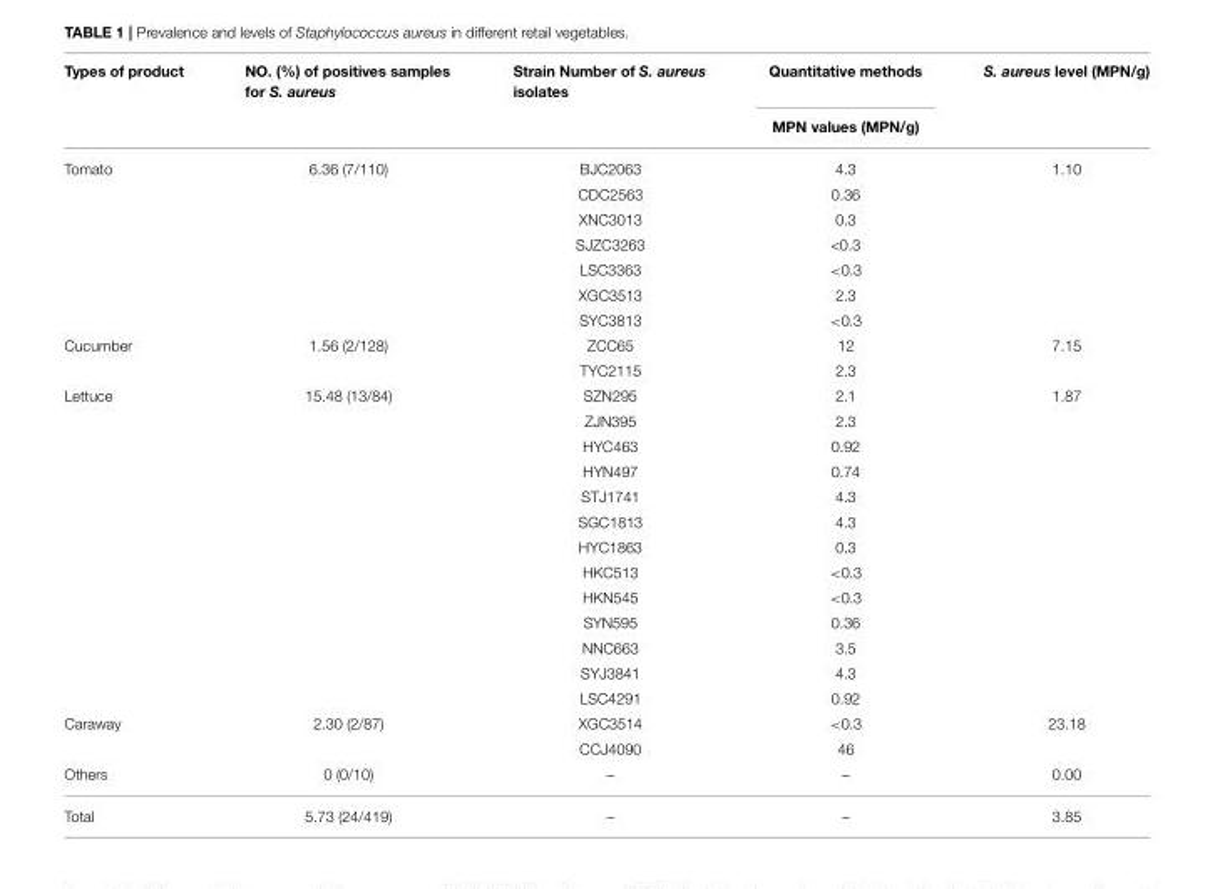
<table><thead><tr><td rowspan="2">Types of product</td><td rowspan="2">NO. (%) of positives samples for S. aureus</td><td rowspan="2">Strain Number of S. aureus isolates</td><td rowspan="2">Quantitative methods MPN values (MPN/g)</td><td rowspan="2">S. aureus level (MPN/g)</td></tr><tr></tr></thead><tbody><tr><td rowspan="7">Tomato</td><td>6.36 (7/110)</td><td>BJC2063</td><td>4.3</td><td>1.10</td></tr><tr><td></td><td>CDC2563</td><td>0.36</td><td></td></tr><tr><td></td><td>XNC3013</td><td>0.3</td><td></td></tr><tr><td></td><td>SJZC3263</td><td>&lt;0.3</td><td></td></tr><tr><td></td><td>LSC3363</td><td>&lt;0.3</td><td></td></tr><tr><td></td><td>XGC3513</td><td>2.3</td><td></td></tr><tr><td></td><td>SYC3813</td><td>&lt;0.3</td><td></td></tr><tr><td rowspan="2">Cucumber</td><td>1.56 (2/128)</td><td>ZCC65</td><td>12</td><td>7.15</td></tr><tr><td></td><td>TYC2115</td><td>2.3</td><td></td></tr><tr><td rowspan="13">Lettuce</td><td>15.48 (13/84)</td><td>SZN295</td><td>2.1</td><td>1.87</td></tr><tr><td></td><td>ZJN395</td><td>2.3</td><td></td></tr><tr><td></td><td>HYC463</td><td>0.92</td><td></td></tr><tr><td></td><td>HYN497</td><td>0.74</td><td></td></tr><tr><td></td><td>STJ1741</td><td>4.3</td><td></td></tr><tr><td></td><td>SGC1813</td><td>4.3</td><td></td></tr><tr><td></td><td>HYC1863</td><td>0.3</td><td></td></tr><tr><td></td><td>HKC513</td><td>&lt;0.3</td><td></td></tr><tr><td></td><td>HKN545</td><td>&lt;0.3</td><td></td></tr><tr><td></td><td>SYN595</td><td>0.36</td><td></td></tr><tr><td></td><td>NNC663</td><td>3.5</td><td></td></tr><tr><td></td><td>SYJ3841</td><td>4.3</td><td></td></tr><tr><td></td><td>LSC4291</td><td>0.92</td><td></td></tr><tr><td rowspan="2">Caraway</td><td>2.30 (2/87)</td><td>XGC3514</td><td>&lt;0.3</td><td>23.18</td></tr><tr><td></td><td>CCJ4090</td><td>46</td><td></td></tr><tr><td>Others</td><td>0 (0/10)</td><td>–</td><td>–</td><td>0.00</td></tr><tr><td>Total</td><td>5.73 (24/419)</td><td>–</td><td>–</td><td>3.85</td></tr></tbody></table>